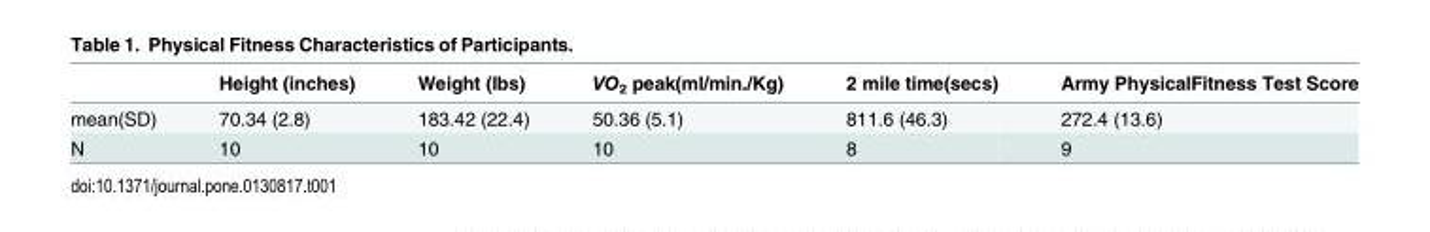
<table><thead><tr><td></td><td>Height (inches)</td><td>Weight (lbs)</td><td>VO<sub>2</sub> peak(ml/min./Kg)</td><td>2 mile time(secs)</td><td>Army PhysicalFitness Test Score</td></tr></thead><tbody><tr><td>mean(SD)</td><td>70.34 (2.8)</td><td>183.42 (22.4)</td><td>50.36 (5.1)</td><td>811.6 (46.3)</td><td>272.4 (13.6)</td></tr><tr><td>N</td><td>10</td><td>10</td><td>10</td><td>8</td><td>9</td></tr></tbody></table>